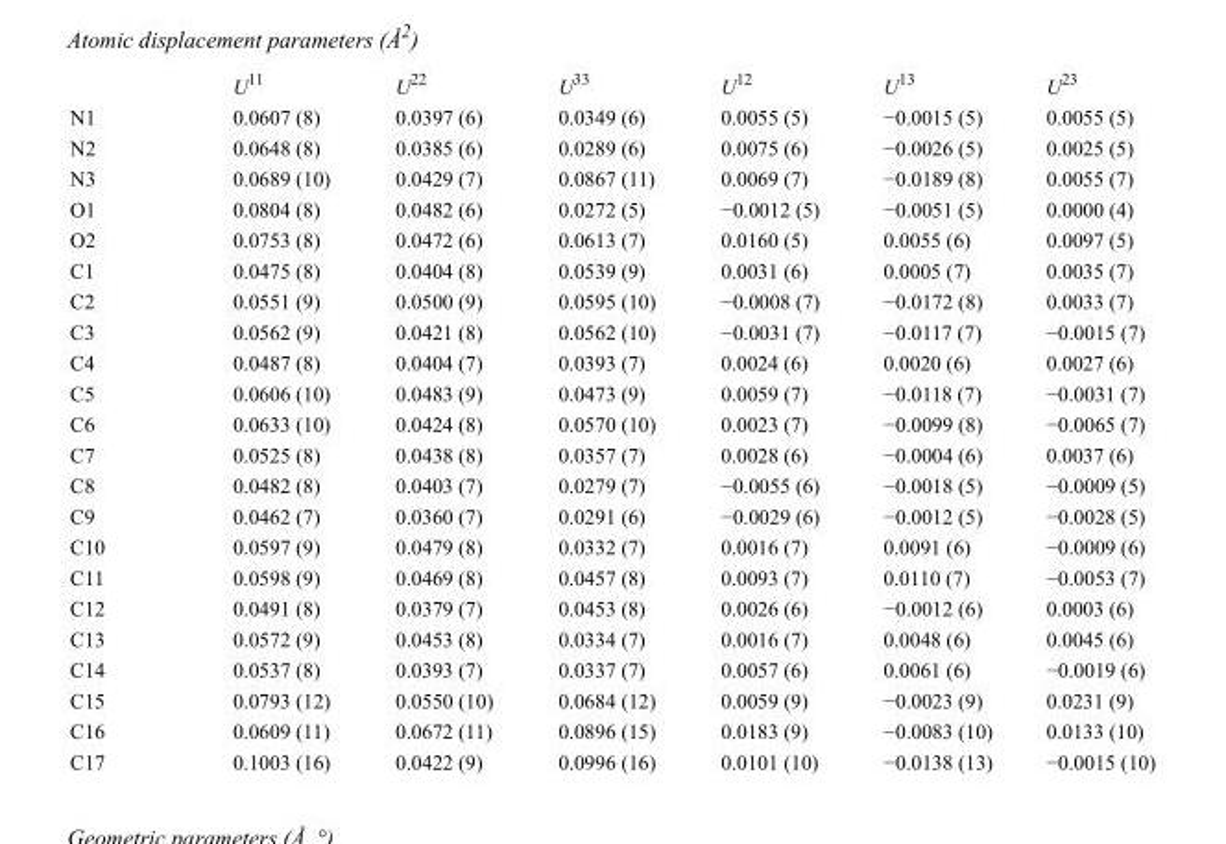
<table><thead><tr><td></td><td>U<sup>11</sup></td><td>U<sup>22</sup></td><td>U<sup>33</sup></td><td>U<sup>12</sup></td><td>U<sup>13</sup></td><td>U<sup>23</sup></td></tr></thead><tbody><tr><td>N1</td><td>0.0607 (8)</td><td>0.0397 (6)</td><td>0.0349 (6)</td><td>0.0055 (5)</td><td>−0.0015 (5)</td><td>0.0055 (5)</td></tr><tr><td>N2</td><td>0.0648 (8)</td><td>0.0385 (6)</td><td>0.0289 (6)</td><td>0.0075 (6)</td><td>−0.0026 (5)</td><td>0.0025 (5)</td></tr><tr><td>N3</td><td>0.0689 (10)</td><td>0.0429 (7)</td><td>0.0867 (11)</td><td>0.0069 (7)</td><td>−0.0189 (8)</td><td>0.0055 (7)</td></tr><tr><td>O1</td><td>0.0804 (8)</td><td>0.0482 (6)</td><td>0.0272 (5)</td><td>−0.0012 (5)</td><td>−0.0051 (5)</td><td>0.0000 (4)</td></tr><tr><td>O2</td><td>0.0753 (8)</td><td>0.0472 (6)</td><td>0.0613 (7)</td><td>0.0160 (5)</td><td>0.0055 (6)</td><td>0.0097 (5)</td></tr><tr><td>C1</td><td>0.0475 (8)</td><td>0.0404 (8)</td><td>0.0539 (9)</td><td>0.0031 (6)</td><td>0.0005 (7)</td><td>0.0035 (7)</td></tr><tr><td>C2</td><td>0.0551 (9)</td><td>0.0500 (9)</td><td>0.0595 (10)</td><td>−0.0008 (7)</td><td>−0.0172 (8)</td><td>0.0033 (7)</td></tr><tr><td>C3</td><td>0.0562 (9)</td><td>0.0421 (8)</td><td>0.0562 (10)</td><td>−0.0031 (7)</td><td>−0.0117 (7)</td><td>−0.0015 (7)</td></tr><tr><td>C4</td><td>0.0487 (8)</td><td>0.0404 (7)</td><td>0.0393 (7)</td><td>0.0024 (6)</td><td>0.0020 (6)</td><td>0.0027 (6)</td></tr><tr><td>C5</td><td>0.0606 (10)</td><td>0.0483 (9)</td><td>0.0473 (9)</td><td>0.0059 (7)</td><td>−0.0118 (7)</td><td>−0.0031 (7)</td></tr><tr><td>C6</td><td>0.0633 (10)</td><td>0.0424 (8)</td><td>0.0570 (10)</td><td>0.0023 (7)</td><td>−0.0099 (8)</td><td>−0.0065 (7)</td></tr><tr><td>C7</td><td>0.0525 (8)</td><td>0.0438 (8)</td><td>0.0357 (7)</td><td>0.0028 (6)</td><td>−0.0004 (6)</td><td>0.0037 (6)</td></tr><tr><td>C8</td><td>0.0482 (8)</td><td>0.0403 (7)</td><td>0.0279 (7)</td><td>−0.0055 (6)</td><td>−0.0018 (5)</td><td>−0.0009 (5)</td></tr><tr><td>C9</td><td>0.0462 (7)</td><td>0.0360 (7)</td><td>0.0291 (6)</td><td>−0.0029 (6)</td><td>−0.0012 (5)</td><td>−0.0028 (5)</td></tr><tr><td>C10</td><td>0.0597 (9)</td><td>0.0479 (8)</td><td>0.0332 (7)</td><td>0.0016 (7)</td><td>0.0091 (6)</td><td>−0.0009 (6)</td></tr><tr><td>C11</td><td>0.0598 (9)</td><td>0.0469 (8)</td><td>0.0457 (8)</td><td>0.0093 (7)</td><td>0.0110 (7)</td><td>−0.0053 (7)</td></tr><tr><td>C12</td><td>0.0491 (8)</td><td>0.0379 (7)</td><td>0.0453 (8)</td><td>0.0026 (6)</td><td>−0.0012 (6)</td><td>0.0003 (6)</td></tr><tr><td>C13</td><td>0.0572 (9)</td><td>0.0453 (8)</td><td>0.0334 (7)</td><td>0.0016 (7)</td><td>0.0048 (6)</td><td>0.0045 (6)</td></tr><tr><td>C14</td><td>0.0537 (8)</td><td>0.0393 (7)</td><td>0.0337 (7)</td><td>0.0057 (6)</td><td>0.0061 (6)</td><td>−0.0019 (6)</td></tr><tr><td>C15</td><td>0.0793 (12)</td><td>0.0550 (10)</td><td>0.0684 (12)</td><td>0.0059 (9)</td><td>−0.0023 (9)</td><td>0.0231 (9)</td></tr><tr><td>C16</td><td>0.0609 (11)</td><td>0.0672 (11)</td><td>0.0896 (15)</td><td>0.0183 (9)</td><td>−0.0083 (10)</td><td>0.0133 (10)</td></tr><tr><td>C17</td><td>0.1003 (16)</td><td>0.0422 (9)</td><td>0.0996 (16)</td><td>0.0101 (10)</td><td>−0.0138 (13)</td><td>−0.0015 (10)</td></tr></tbody></table>